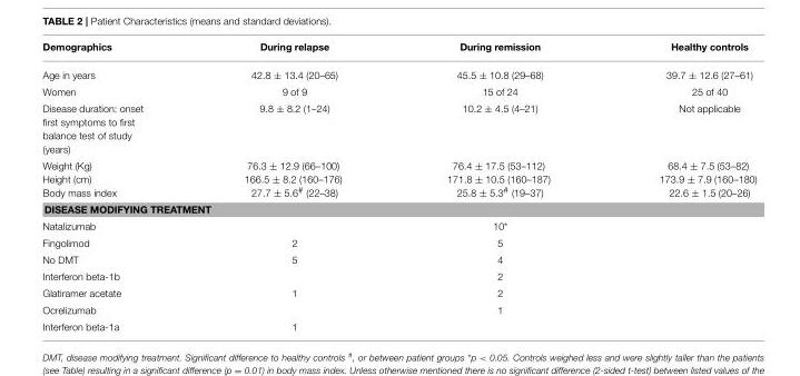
<table><thead><tr><td>Demographics</td><td>During relapse</td><td>During remission</td><td>Healthy controls</td></tr></thead><tbody><tr><td>Age in years</td><td>42.8 ± 13.4 (20–65)</td><td>45.5 ± 10.8 (29–68)</td><td>39.7 ± 12.6 (27–61)</td></tr><tr><td>Women</td><td>9 of 9</td><td>15 of 24</td><td>25 of 40</td></tr><tr><td>Disease duration: onset first symptoms to first balance test of study (years)</td><td>9.8 ± 8.2 (1–24)</td><td>10.2 ± 4.5 (4–21)</td><td>Not applicable</td></tr><tr><td>Weight (Kg) Height (cm) Body mass index</td><td>76.3 ± 12.9 (66–100) 166.5 ± 8.2 (160–176) 27.7 ± 5.6<sup>#</sup> (22–38)</td><td>76.4 ± 17.5 (53–112) 171.8 ± 10.5 (160–187) 25.8 ± 5.3<sup>#</sup> (19–37)</td><td>68.4 ± 7.5 (53–82) 173.9 ± 7.9 (160–180) 22.6 ± 1.5 (20–26)</td></tr><tr><td colspan="4">DISEASE MODIFYING TREATMENT</td></tr><tr><td>Natalizumab</td><td></td><td>10*</td><td></td></tr><tr><td>Fingolimod</td><td>2</td><td>5</td><td></td></tr><tr><td>No DMT</td><td>5</td><td>4</td><td></td></tr><tr><td>Interferon beta-1b</td><td></td><td>2</td><td></td></tr><tr><td>Glatiramer acetate</td><td>1</td><td>2</td><td></td></tr><tr><td>Ocrelizumab</td><td></td><td>1</td><td></td></tr><tr><td>Interferon beta-1a</td><td>1</td><td></td><td></td></tr></tbody></table>